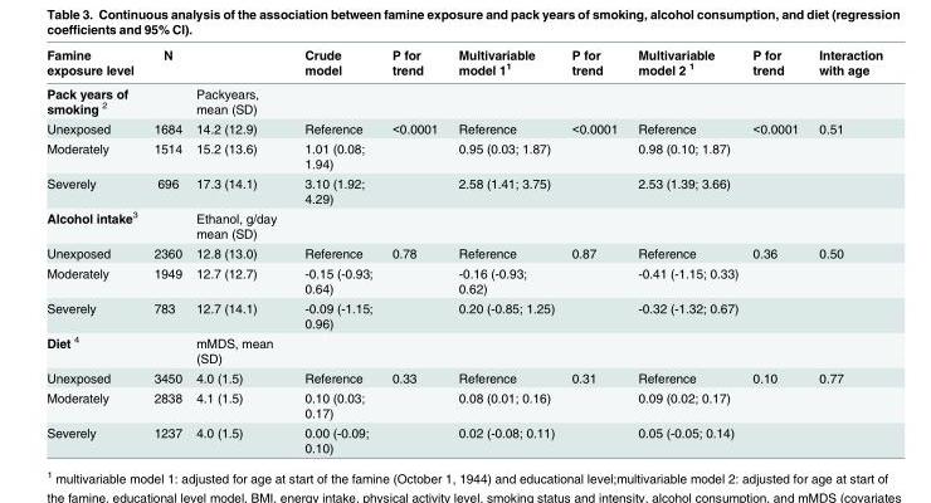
<table><thead><tr><td>Famine exposure level</td><td>N</td><td></td><td>Crude model</td><td>P for trend</td><td>Multivariable model 1<sup>1</sup></td><td>P for trend</td><td>Multivariable model 2 <sup>1</sup></td><td>P for trend</td><td>Interaction with age</td></tr></thead><tbody><tr><td>Pack years of smoking <sup>2</sup></td><td></td><td>Packyears, mean (SD)</td><td></td><td></td><td></td><td></td><td></td><td></td><td></td></tr><tr><td>Unexposed</td><td>1684</td><td>14.2 (12.9)</td><td>Reference</td><td>&lt;0.0001</td><td>Reference</td><td>&lt;0.0001</td><td>Reference</td><td>&lt;0.0001</td><td>0.51</td></tr><tr><td>Moderately</td><td>1514</td><td>15.2 (13.6)</td><td>1.01 (0.08; 1.94)</td><td></td><td>0.95 (0.03; 1.87)</td><td></td><td>0.98 (0.10; 1.87)</td><td></td><td></td></tr><tr><td>Severely</td><td>696</td><td>17.3 (14.1)</td><td>3.10 (1.92; 4.29)</td><td></td><td>2.58 (1.41; 3.75)</td><td></td><td>2.53 (1.39; 3.66)</td><td></td><td></td></tr><tr><td>Alcohol intake<sup>3</sup></td><td></td><td>Ethanol, g/day mean (SD)</td><td></td><td></td><td></td><td></td><td></td><td></td><td></td></tr><tr><td>Unexposed</td><td>2360</td><td>12.8 (13.0)</td><td>Reference</td><td>0.78</td><td>Reference</td><td>0.87</td><td>Reference</td><td>0.36</td><td>0.50</td></tr><tr><td>Moderately</td><td>1949</td><td>12.7 (12.7)</td><td>-0.15 (-0.93; 0.64)</td><td></td><td>-0.16 (-0.93; 0.62)</td><td></td><td>-0.41 (-1.15; 0.33)</td><td></td><td></td></tr><tr><td>Severely</td><td>783</td><td>12.7 (14.1)</td><td>-0.09 (-1.15; 0.96)</td><td></td><td>0.20 (-0.85; 1.25)</td><td></td><td>-0.32 (-1.32; 0.67)</td><td></td><td></td></tr><tr><td>Diet <sup>4</sup></td><td></td><td>mMDS, mean (SD)</td><td></td><td></td><td></td><td></td><td></td><td></td><td></td></tr><tr><td>Unexposed</td><td>3450</td><td>4.0 (1.5)</td><td>Reference</td><td>0.33</td><td>Reference</td><td>0.31</td><td>Reference</td><td>0.10</td><td>0.77</td></tr><tr><td>Moderately</td><td>2838</td><td>4.1 (1.5)</td><td>0.10 (0.03; 0.17)</td><td></td><td>0.08 (0.01; 0.16)</td><td></td><td>0.09 (0.02; 0.17)</td><td></td><td></td></tr><tr><td>Severely</td><td>1237</td><td>4.0 (1.5)</td><td>0.00 (-0.09; 0.10)</td><td></td><td>0.02 (-0.08; 0.11)</td><td></td><td>0.05 (-0.05; 0.14)</td><td></td><td></td></tr></tbody></table>